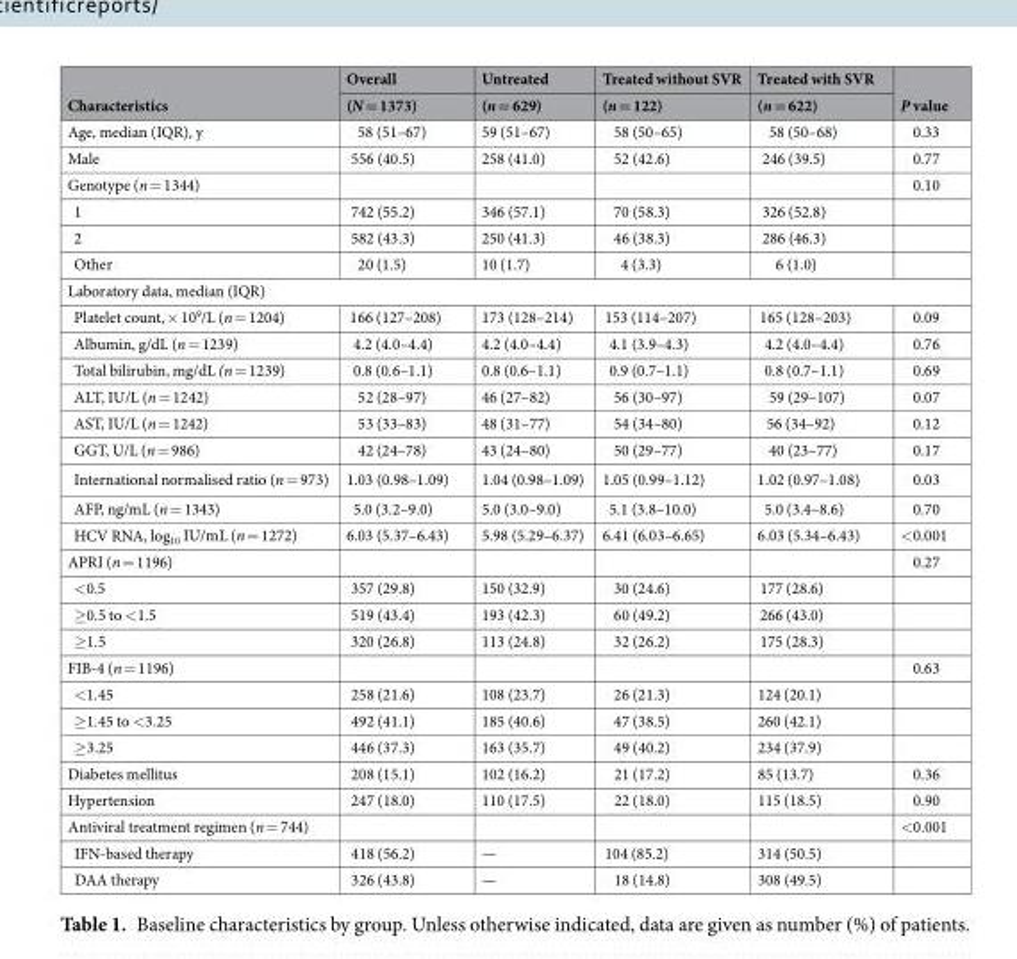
<table><thead><tr><td rowspan="2">Characteristics</td><td rowspan="2">Overall (N = 1373)</td><td rowspan="2">Untreated (n = 629)</td><td rowspan="2">Treated without SVR (n = 122)</td><td rowspan="2">Treated with SVR (n = 622)</td><td rowspan="2">P value</td></tr><tr></tr></thead><tbody><tr><td>Age, median (IQR), y</td><td>58 (51–67)</td><td>59 (51–67)</td><td>58 (50–65)</td><td>58 (50–68)</td><td>0.33</td></tr><tr><td>Male</td><td>556 (40.5)</td><td>258 (41.0)</td><td>52 (42.6)</td><td>246 (39.5)</td><td>0.77</td></tr><tr><td>Genotype (n = 1344)</td><td></td><td></td><td></td><td></td><td>0.10</td></tr><tr><td>1</td><td>742 (55.2)</td><td>346 (57.1)</td><td>70 (58.3)</td><td>326 (52.8)</td><td></td></tr><tr><td>2</td><td>582 (43.3)</td><td>250 (41.3)</td><td>46 (38.3)</td><td>286 (46.3)</td><td></td></tr><tr><td>Other</td><td>20 (1.5)</td><td>10 (1.7)</td><td>4 (3.3)</td><td>6 (1.0)</td><td></td></tr><tr><td colspan="6">Laboratory data, median (IQR)</td></tr><tr><td>Platelet count, × 10<sup>9</sup>/L (n = 1204)</td><td>166 (127–208)</td><td>173 (128–214)</td><td>153 (114–207)</td><td>165 (128–203)</td><td>0.09</td></tr><tr><td>Albumin, g/dL (n = 1239)</td><td>4.2 (4.0–4.4)</td><td>4.2 (4.0–4.4)</td><td>4.1 (3.9–4.3)</td><td>4.2 (4.0–4.4)</td><td>0.76</td></tr><tr><td>Total bilirubin, mg/dL (n = 1239)</td><td>0.8 (0.6–1.1)</td><td>0.8 (0.6–1.1)</td><td>0.9 (0.7–1.1)</td><td>0.8 (0.7–1.1)</td><td>0.69</td></tr><tr><td>ALT, IU/L (n = 1242)</td><td>52 (28–97)</td><td>46 (27–82)</td><td>56 (30–97)</td><td>59 (29–107)</td><td>0.07</td></tr><tr><td>AST, IU/L (n = 1242)</td><td>53 (33–83)</td><td>48 (31–77)</td><td>54 (34–80)</td><td>56 (34–92)</td><td>0.12</td></tr><tr><td>GGT, U/L (n = 986)</td><td>42 (24–78)</td><td>43 (24–80)</td><td>50 (29–77)</td><td>40 (23–77)</td><td>0.17</td></tr><tr><td>International normalised ratio (n = 973)</td><td>1.03 (0.98–1.09)</td><td>1.04 (0.98–1.09)</td><td>1.05 (0.99–1.12)</td><td>1.02 (0.97–1.08)</td><td>0.03</td></tr><tr><td>AFP, ng/mL (n = 1343)</td><td>5.0 (3.2–9.0)</td><td>5.0 (3.0–9.0)</td><td>5.1 (3.8–10.0)</td><td>5.0 (3.4–8.6)</td><td>0.70</td></tr><tr><td>HCV RNA, log<sub>10</sub> IU/mL (n = 1272)</td><td>6.03 (5.37–6.43)</td><td>5.98 (5.29–6.37)</td><td>6.41 (6.03–6.65)</td><td>6.03 (5.34–6.43)</td><td>&lt;0.001</td></tr><tr><td>APRI (n = 1196)</td><td></td><td></td><td></td><td></td><td>0.27</td></tr><tr><td>&lt;0.5</td><td>357 (29.8)</td><td>150 (32.9)</td><td>30 (24.6)</td><td>177 (28.6)</td><td></td></tr><tr><td>≥0.5 to &lt;1.5</td><td>519 (43.4)</td><td>193 (42.3)</td><td>60 (49.2)</td><td>266 (43.0)</td><td></td></tr><tr><td>≥1.5</td><td>320 (26.8)</td><td>113 (24.8)</td><td>32 (26.2)</td><td>175 (28.3)</td><td></td></tr><tr><td>FIB-4 (n = 1196)</td><td></td><td></td><td></td><td></td><td>0.63</td></tr><tr><td>&lt;1.45</td><td>258 (21.6)</td><td>108 (23.7)</td><td>26 (21.3)</td><td>124 (20.1)</td><td></td></tr><tr><td>≥1.45 to &lt;3.25</td><td>492 (41.1)</td><td>185 (40.6)</td><td>47 (38.5)</td><td>260 (42.1)</td><td></td></tr><tr><td>≥3.25</td><td>446 (37.3)</td><td>163 (35.7)</td><td>49 (40.2)</td><td>234 (37.9)</td><td></td></tr><tr><td>Diabetes mellitus</td><td>208 (15.1)</td><td>102 (16.2)</td><td>21 (17.2)</td><td>85 (13.7)</td><td>0.36</td></tr><tr><td>Hypertension</td><td>247 (18.0)</td><td>110 (17.5)</td><td>22 (18.0)</td><td>115 (18.5)</td><td>0.90</td></tr><tr><td>Antiviral treatment regimen (n = 744)</td><td></td><td></td><td></td><td></td><td>&lt;0.001</td></tr><tr><td>IFN-based therapy</td><td>418 (56.2)</td><td>—</td><td>104 (85.2)</td><td>314 (50.5)</td><td></td></tr><tr><td>DAA therapy</td><td>326 (43.8)</td><td>—</td><td>18 (14.8)</td><td>308 (49.5)</td><td></td></tr></tbody></table>